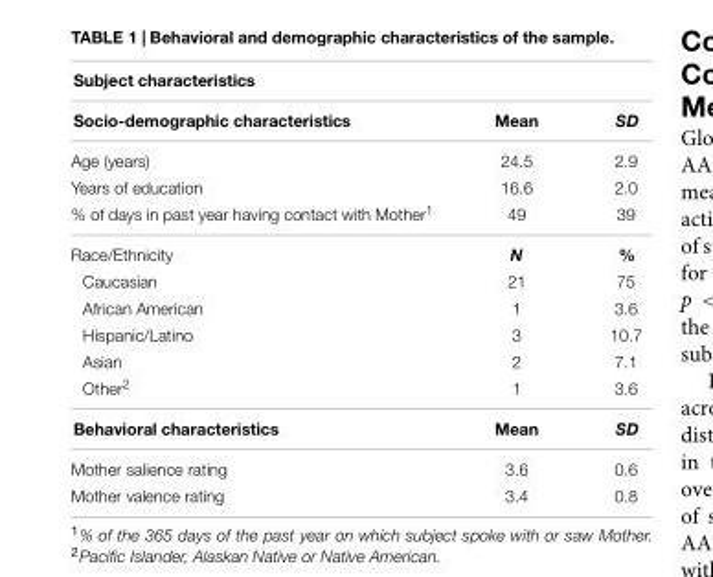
<table><thead><tr><td colspan="3">Subject characteristics</td></tr><tr><td>Socio-demographic characteristics</td><td>Mean</td><td>SD</td></tr></thead><tbody><tr><td>Age (years)</td><td>24.5</td><td>2.9</td></tr><tr><td>Years of education</td><td>16.6</td><td>2.0</td></tr><tr><td>% of days in past year having contact with Mother<sup>1</sup></td><td>49</td><td>39</td></tr><tr><td>Race/Ethnicity</td><td>N</td><td>%</td></tr><tr><td>Caucasian</td><td>21</td><td>75</td></tr><tr><td>African American</td><td>1</td><td>3.6</td></tr><tr><td>Hispanic/Latino</td><td>3</td><td>10.7</td></tr><tr><td>Asian</td><td>2</td><td>7.1</td></tr><tr><td>Other<sup>2</sup></td><td>1</td><td>3.6</td></tr><tr><td>Behavioral characteristics</td><td>Mean</td><td>SD</td></tr><tr><td>Mother salience rating</td><td>3.6</td><td>0.6</td></tr><tr><td>Mother valence rating</td><td>3.4</td><td>0.8</td></tr></tbody></table>